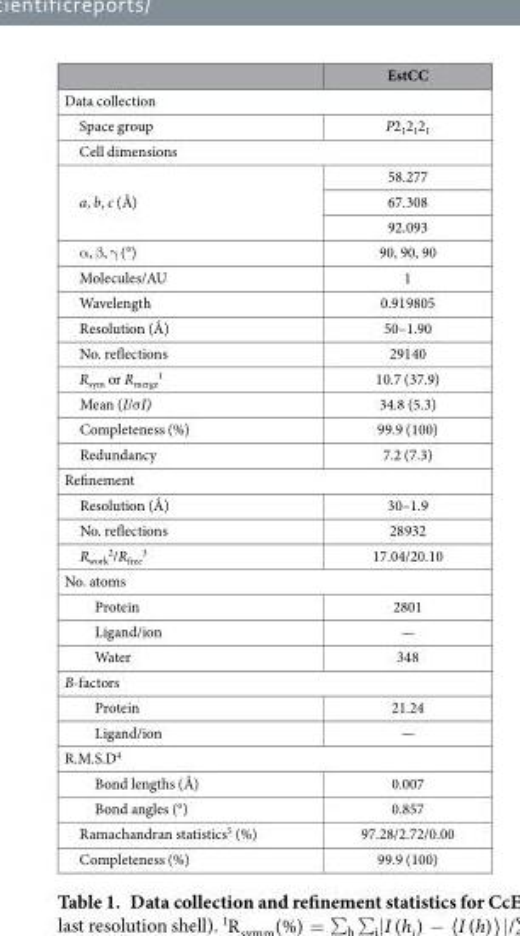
<table><thead><tr><td></td><td>EstCC</td></tr></thead><tbody><tr><td colspan="2">Data collection</td></tr><tr><td>Space group</td><td>P2<sub>1</sub>2<sub>1</sub>2<sub>1</sub></td></tr><tr><td colspan="2">Cell dimensions</td></tr><tr><td rowspan="3">a, b, c (Å)</td><td>58.277</td></tr><tr><td>67.308</td></tr><tr><td>92.093</td></tr><tr><td>α , β , γ (°)</td><td>90, 90, 90</td></tr><tr><td>Molecules/AU</td><td>1</td></tr><tr><td>Wavelength</td><td>0.919805</td></tr><tr><td>Resolution (Å)</td><td>50–1.90</td></tr><tr><td>No. reflections</td><td>29140</td></tr><tr><td>R<sub>sym</sub> or R<sub>merge</sub> <sup>1</sup></td><td>10.7 (37.9)</td></tr><tr><td>Mean (I/σ I)</td><td>34.8 (5.3)</td></tr><tr><td>Completeness (%)</td><td>99.9 (100)</td></tr><tr><td>Redundancy</td><td>7.2 (7.3)</td></tr><tr><td colspan="2">Refinement</td></tr><tr><td>Resolution (Å)</td><td>30–1.9</td></tr><tr><td>No. reflections</td><td>28932</td></tr><tr><td>R<sub>work</sub> <sup>2</sup>/R<sub>free</sub> <sup>3</sup></td><td>17.04/20.10</td></tr><tr><td colspan="2">No. atoms</td></tr><tr><td>Protein</td><td>2801</td></tr><tr><td>Ligand/ion</td><td>—</td></tr><tr><td>Water</td><td>348</td></tr><tr><td colspan="2">B-factors</td></tr><tr><td>Protein</td><td>21.24</td></tr><tr><td>Ligand/ion</td><td>—</td></tr><tr><td colspan="2">R.M.S.D<sup>4</sup></td></tr><tr><td>Bond lengths (Å)</td><td>0.007</td></tr><tr><td>Bond angles (°)</td><td>0.857</td></tr><tr><td>Ramachandran statistics<sup>5</sup> (%)</td><td>97.28/2.72/0.00</td></tr><tr><td>Completeness (%)</td><td>99.9 (100)</td></tr></tbody></table>